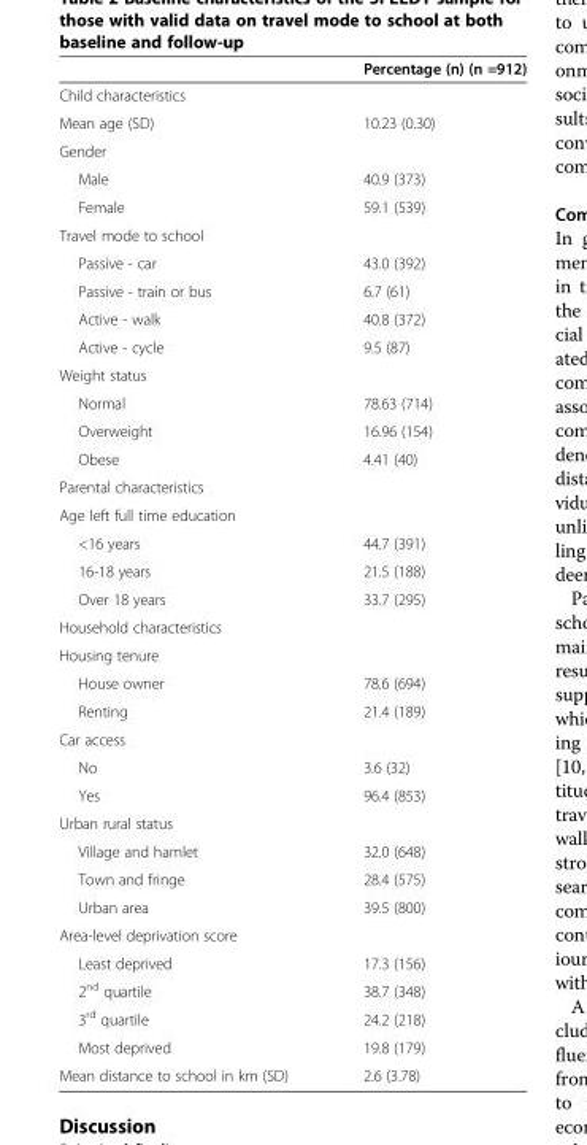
<table><thead><tr><td></td><td>Percentage (n) (n =912)</td></tr></thead><tbody><tr><td colspan="2">Child characteristics</td></tr><tr><td>Mean age (SD)</td><td>10.23 (0.30)</td></tr><tr><td colspan="2">Gender</td></tr><tr><td>Male</td><td>40.9 (373)</td></tr><tr><td>Female</td><td>59.1 (539)</td></tr><tr><td colspan="2">Travel mode to school</td></tr><tr><td>Passive - car</td><td>43.0 (392)</td></tr><tr><td>Passive - train or bus</td><td>6.7 (61)</td></tr><tr><td>Active - walk</td><td>40.8 (372)</td></tr><tr><td>Active - cycle</td><td>9.5 (87)</td></tr><tr><td colspan="2">Weight status</td></tr><tr><td>Normal</td><td>78.63 (714)</td></tr><tr><td>Overweight</td><td>16.96 (154)</td></tr><tr><td>Obese</td><td>4.41 (40)</td></tr><tr><td colspan="2">Parental characteristics</td></tr><tr><td colspan="2">Age left full time education</td></tr><tr><td>&lt;16 years</td><td>44.7 (391)</td></tr><tr><td>16-18 years</td><td>21.5 (188)</td></tr><tr><td>Over 18 years</td><td>33.7 (295)</td></tr><tr><td colspan="2">Household characteristics</td></tr><tr><td colspan="2">Housing tenure</td></tr><tr><td>House owner</td><td>78.6 (694)</td></tr><tr><td>Renting</td><td>21.4 (189)</td></tr><tr><td colspan="2">Car access</td></tr><tr><td>No</td><td>3.6 (32)</td></tr><tr><td>Yes</td><td>96.4 (853)</td></tr><tr><td colspan="2">Urban rural status</td></tr><tr><td>Village and hamlet</td><td>32.0 (648)</td></tr><tr><td>Town and fringe</td><td>28.4 (575)</td></tr><tr><td>Urban area</td><td>39.5 (800)</td></tr><tr><td colspan="2">Area-level deprivation score</td></tr><tr><td>Least deprived</td><td>17.3 (156)</td></tr><tr><td>2<sup>nd</sup> quartile</td><td>38.7 (348)</td></tr><tr><td>3<sup>rd</sup> quartile</td><td>24.2 (218)</td></tr><tr><td>Most deprived</td><td>19.8 (179)</td></tr><tr><td>Mean distance to school in km (SD)</td><td>2.6 (3.78)</td></tr></tbody></table>